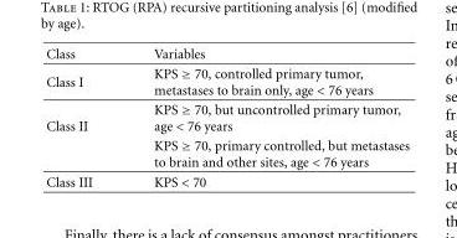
<table><thead><tr><td>Class</td><td>Variables</td></tr></thead><tbody><tr><td>Class I</td><td>KPS ≥ 70, controlled primary tumor, metastases to brain only, age &lt; 76 years</td></tr><tr><td rowspan="2">Class II</td><td>KPS ≥ 70, but uncontrolled primary tumor, age &lt; 76 years</td></tr><tr><td>KPS ≥ 70, primary controlled, but metastases to brain and other sites, age &lt; 76 years</td></tr><tr><td>Class III</td><td>KPS &lt; 70</td></tr></tbody></table>